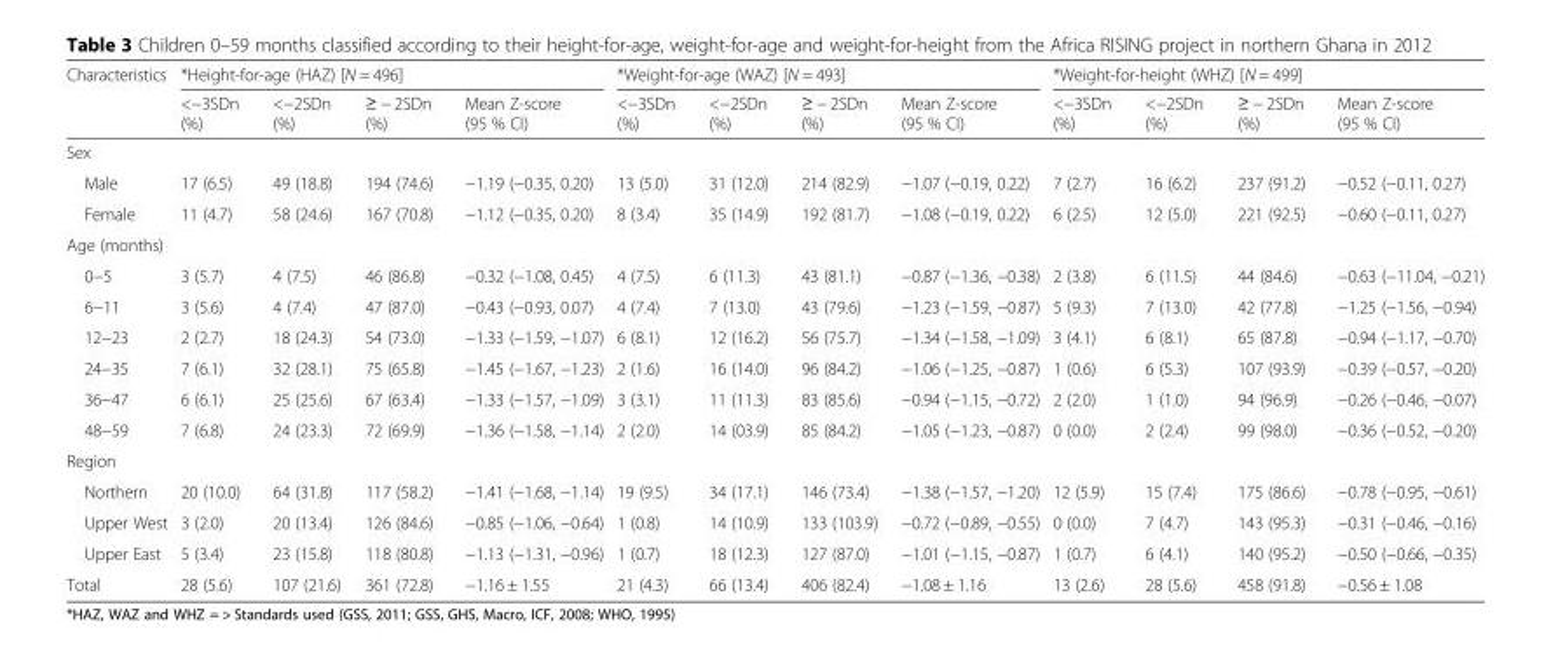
<table><thead><tr><td rowspan="2">Characteristics</td><td colspan="4">*Height-for-age (HAZ) [N = 496]</td><td colspan="4">*Weight-for-age (WAZ) [N = 493]</td><td colspan="4">*Weight-for-height (WHZ) [N = 499]</td></tr><tr><td>&lt;−3SDn (%)</td><td>&lt;−2SDn (%)</td><td>≥ − 2SDn (%)</td><td>Mean Z-score (95 % CI)</td><td>&lt;−3SDn (%)</td><td>&lt;−2SDn (%)</td><td>≥ − 2SDn (%)</td><td>Mean Z-score (95 % CI)</td><td>&lt;−3SDn (%)</td><td>&lt;−2SDn (%)</td><td>≥ − 2SDn (%)</td><td>Mean Z-score (95 % CI)</td></tr></thead><tbody><tr><td colspan="13">Sex</td></tr><tr><td>Male</td><td>17 (6.5)</td><td>49 (18.8)</td><td>194 (74.6)</td><td>−1.19 (−0.35, 0.20)</td><td>13 (5.0)</td><td>31 (12.0)</td><td>214 (82.9)</td><td>−1.07 (−0.19, 0.22)</td><td>7 (2.7)</td><td>16 (6.2)</td><td>237 (91.2)</td><td>−0.52 (−0.11, 0.27)</td></tr><tr><td>Female</td><td>11 (4.7)</td><td>58 (24.6)</td><td>167 (70.8)</td><td>−1.12 (−0.35, 0.20)</td><td>8 (3.4)</td><td>35 (14.9)</td><td>192 (81.7)</td><td>−1.08 (−0.19, 0.22)</td><td>6 (2.5)</td><td>12 (5.0)</td><td>221 (92.5)</td><td>−0.60 (−0.11, 0.27)</td></tr><tr><td colspan="13">Age (months)</td></tr><tr><td>0−5</td><td>3 (5.7)</td><td>4 (7.5)</td><td>46 (86.8)</td><td>−0.32 (−1.08, 0.45)</td><td>4 (7.5)</td><td>6 (11.3)</td><td>43 (81.1)</td><td>−0.87 (−1.36, −0.38)</td><td>2 (3.8)</td><td>6 (11.5)</td><td>44 (84.6)</td><td>−0.63 (−11.04, −0.21)</td></tr><tr><td>6−11</td><td>3 (5.6)</td><td>4 (7.4)</td><td>47 (87.0)</td><td>−0.43 (−0.93, 0.07)</td><td>4 (7.4)</td><td>7 (13.0)</td><td>43 (79.6)</td><td>−1.23 (−1.59, −0.87)</td><td>5 (9.3)</td><td>7 (13.0)</td><td>42 (77.8)</td><td>−1.25 (−1.56, −0.94)</td></tr><tr><td>12−23</td><td>2 (2.7)</td><td>18 (24.3)</td><td>54 (73.0)</td><td>−1.33 (−1.59, −1.07)</td><td>6 (8.1)</td><td>12 (16.2)</td><td>56 (75.7)</td><td>−1.34 (−1.58, −1.09)</td><td>3 (4.1)</td><td>6 (8.1)</td><td>65 (87.8)</td><td>−0.94 (−1.17, −0.70)</td></tr><tr><td>24−35</td><td>7 (6.1)</td><td>32 (28.1)</td><td>75 (65.8)</td><td>−1.45 (−1.67, −1.23)</td><td>2 (1.6)</td><td>16 (14.0)</td><td>96 (84.2)</td><td>−1.06 (−1.25, −0.87)</td><td>1 (0.6)</td><td>6 (5.3)</td><td>107 (93.9)</td><td>−0.39 (−0.57, −0.20)</td></tr><tr><td>36−47</td><td>6 (6.1)</td><td>25 (25.6)</td><td>67 (63.4)</td><td>−1.33 (−1.57, −1.09)</td><td>3 (3.1)</td><td>11 (11.3)</td><td>83 (85.6)</td><td>−0.94 (−1.15, −0.72)</td><td>2 (2.0)</td><td>1 (1.0)</td><td>94 (96.9)</td><td>−0.26 (−0.46, −0.07)</td></tr><tr><td>48−59</td><td>7 (6.8)</td><td>24 (23.3)</td><td>72 (69.9)</td><td>−1.36 (−1.58, −1.14)</td><td>2 (2.0)</td><td>14 (03.9)</td><td>85 (84.2)</td><td>−1.05 (−1.23, −0.87)</td><td>0 (0.0)</td><td>2 (2.4)</td><td>99 (98.0)</td><td>−0.36 (−0.52, −0.20)</td></tr><tr><td colspan="13">Region</td></tr><tr><td>Northern</td><td>20 (10.0)</td><td>64 (31.8)</td><td>117 (58.2)</td><td>−1.41 (−1.68, −1.14)</td><td>19 (9.5)</td><td>34 (17.1)</td><td>146 (73.4)</td><td>−1.38 (−1.57, −1.20)</td><td>12 (5.9)</td><td>15 (7.4)</td><td>175 (86.6)</td><td>−0.78 (−0.95, −0.61)</td></tr><tr><td>Upper West</td><td>3 (2.0)</td><td>20 (13.4)</td><td>126 (84.6)</td><td>−0.85 (−1.06, −0.64)</td><td>1 (0.8)</td><td>14 (10.9)</td><td>133 (103.9)</td><td>−0.72 (−0.89, −0.55)</td><td>0 (0.0)</td><td>7 (4.7)</td><td>143 (95.3)</td><td>−0.31 (−0.46, −0.16)</td></tr><tr><td>Upper East</td><td>5 (3.4)</td><td>23 (15.8)</td><td>118 (80.8)</td><td>−1.13 (−1.31, −0.96)</td><td>1 (0.7)</td><td>18 (12.3)</td><td>127 (87.0)</td><td>−1.01 (−1.15, −0.87)</td><td>1 (0.7)</td><td>6 (4.1)</td><td>140 (95.2)</td><td>−0.50 (−0.66, −0.35)</td></tr><tr><td>Total</td><td>28 (5.6)</td><td>107 (21.6)</td><td>361 (72.8)</td><td>−1.16 ± 1.55</td><td>21 (4.3)</td><td>66 (13.4)</td><td>406 (82.4)</td><td>−1.08 ± 1.16</td><td>13 (2.6)</td><td>28 (5.6)</td><td>458 (91.8)</td><td>−0.56 ± 1.08</td></tr></tbody></table>